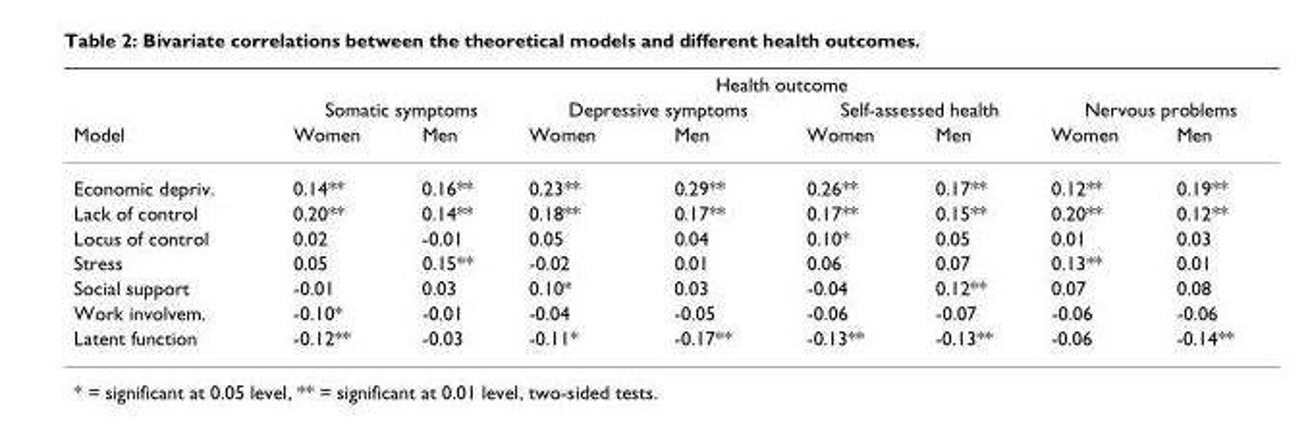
<table><thead><tr><td rowspan="3">Model</td><td colspan="8">Health outcome</td></tr><tr><td colspan="2">Somatic symptoms</td><td colspan="2">Depressive symptoms</td><td colspan="2">Self-assessed health</td><td colspan="2">Nervous problems</td></tr><tr><td>Women</td><td>Men</td><td>Women</td><td>Men</td><td>Women</td><td>Men</td><td>Women</td><td>Men</td></tr></thead><tbody><tr><td>Economic depriv.</td><td>0.14**</td><td>0.16**</td><td>0.23**</td><td>0.29**</td><td>0.26**</td><td>0.17**</td><td>0.12**</td><td>0.19**</td></tr><tr><td>Lack of control</td><td>0.20**</td><td>0.14**</td><td>0.18**</td><td>0.17**</td><td>0.17**</td><td>0.15**</td><td>0.20**</td><td>0.12**</td></tr><tr><td>Locus of control</td><td>0.02</td><td>-0.01</td><td>0.05</td><td>0.04</td><td>0.10*</td><td>0.05</td><td>0.01</td><td>0.03</td></tr><tr><td>Stress</td><td>0.05</td><td>0.15**</td><td>-0.02</td><td>0.01</td><td>0.06</td><td>0.07</td><td>0.13**</td><td>0.01</td></tr><tr><td>Social support</td><td>-0.01</td><td>0.03</td><td>0.10*</td><td>0.03</td><td>-0.04</td><td>0.12**</td><td>0.07</td><td>0.08</td></tr><tr><td>Work involvem.</td><td>-0.10*</td><td>-0.01</td><td>-0.04</td><td>-0.05</td><td>-0.06</td><td>-0.07</td><td>-0.06</td><td>-0.06</td></tr><tr><td>Latent function</td><td>-0.12**</td><td>-0.03</td><td>-0.11*</td><td>-0.17**</td><td>-0.13**</td><td>-0.13**</td><td>-0.06</td><td>-0.14**</td></tr></tbody></table>